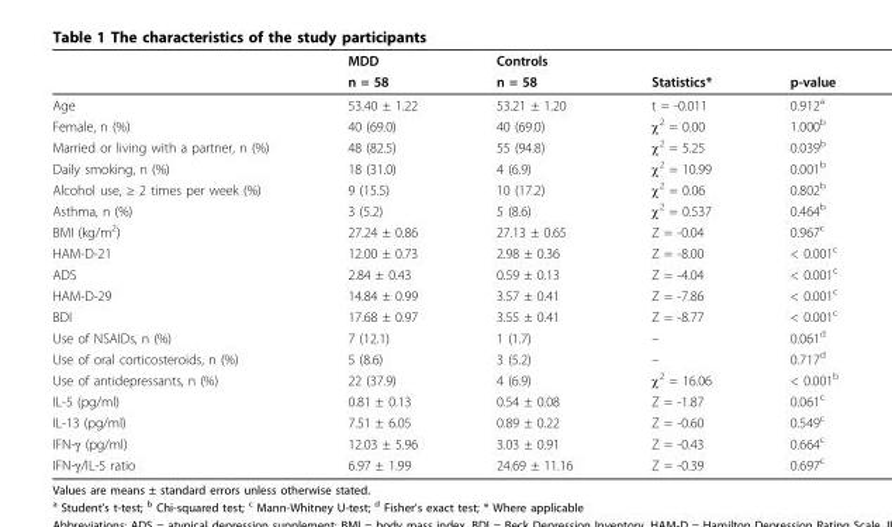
<table><thead><tr><td rowspan="2"></td><td rowspan="2">MDD n = 58</td><td rowspan="2">Controls n = 58</td><td rowspan="2">Statistics*</td><td rowspan="2">p-value</td></tr><tr></tr></thead><tbody><tr><td>Age</td><td>53.40 ± 1.22</td><td>53.21 ± 1.20</td><td>t = -0.011</td><td>0.912<sup>a</sup></td></tr><tr><td>Female, n (%)</td><td>40 (69.0)</td><td>40 (69.0)</td><td>χ<sup>2</sup> = 0.00</td><td>1.000<sup>b</sup></td></tr><tr><td>Married or living with a partner, n (%)</td><td>48 (82.5)</td><td>55 (94.8)</td><td>χ<sup>2</sup> = 5.25</td><td>0.039<sup>b</sup></td></tr><tr><td>Daily smoking, n (%)</td><td>18 (31.0)</td><td>4 (6.9)</td><td>χ<sup>2</sup> = 10.99</td><td>0.001<sup>b</sup></td></tr><tr><td>Alcohol use, ≥ 2 times per week (%)</td><td>9 (15.5)</td><td>10 (17.2)</td><td>χ<sup>2</sup> = 0.06</td><td>0.802<sup>b</sup></td></tr><tr><td>Asthma, n (%)</td><td>3 (5.2)</td><td>5 (8.6)</td><td>χ<sup>2</sup> = 0.537</td><td>0.464<sup>b</sup></td></tr><tr><td>BMI (kg/m<sup>2</sup>)</td><td>27.24 ± 0.86</td><td>27.13 ± 0.65</td><td>Z = -0.04</td><td>0.967<sup>c</sup></td></tr><tr><td>HAM-D-21</td><td>12.00 ± 0.73</td><td>2.98 ± 0.36</td><td>Z = -8.00</td><td>&lt; 0.001<sup>c</sup></td></tr><tr><td>ADS</td><td>2.84 ± 0.43</td><td>0.59 ± 0.13</td><td>Z = -4.04</td><td>&lt; 0.001<sup>c</sup></td></tr><tr><td>HAM-D-29</td><td>14.84 ± 0.99</td><td>3.57 ± 0.41</td><td>Z = -7.86</td><td>&lt; 0.001<sup>c</sup></td></tr><tr><td>BDI</td><td>17.68 ± 0.97</td><td>3.55 ± 0.41</td><td>Z = -8.77</td><td>&lt; 0.001<sup>c</sup></td></tr><tr><td>Use of NSAIDs, n (%)</td><td>7 (12.1)</td><td>1 (1.7)</td><td>–</td><td>0.061<sup>d</sup></td></tr><tr><td>Use of oral corticosteroids, n (%)</td><td>5 (8.6)</td><td>3 (5.2)</td><td>–</td><td>0.717<sup>d</sup></td></tr><tr><td>Use of antidepressants, n (%)</td><td>22 (37.9)</td><td>4 (6.9)</td><td>χ<sup>2</sup> = 16.06</td><td>&lt; 0.001<sup>b</sup></td></tr><tr><td>IL-5 (pg/ml)</td><td>0.81 ± 0.13</td><td>0.54 ± 0.08</td><td>Z = -1.87</td><td>0.061<sup>c</sup></td></tr><tr><td>IL-13 (pg/ml)</td><td>7.51 ± 6.05</td><td>0.89 ± 0.22</td><td>Z = -0.60</td><td>0.549<sup>c</sup></td></tr><tr><td>IFN-γ (pg/ml)</td><td>12.03 ± 5.96</td><td>3.03 ± 0.91</td><td>Z = -0.43</td><td>0.664<sup>c</sup></td></tr><tr><td>IFN-γ/IL-5 ratio</td><td>6.97 ± 1.99</td><td>24.69 ± 11.16</td><td>Z = -0.39</td><td>0.697<sup>c</sup></td></tr></tbody></table>